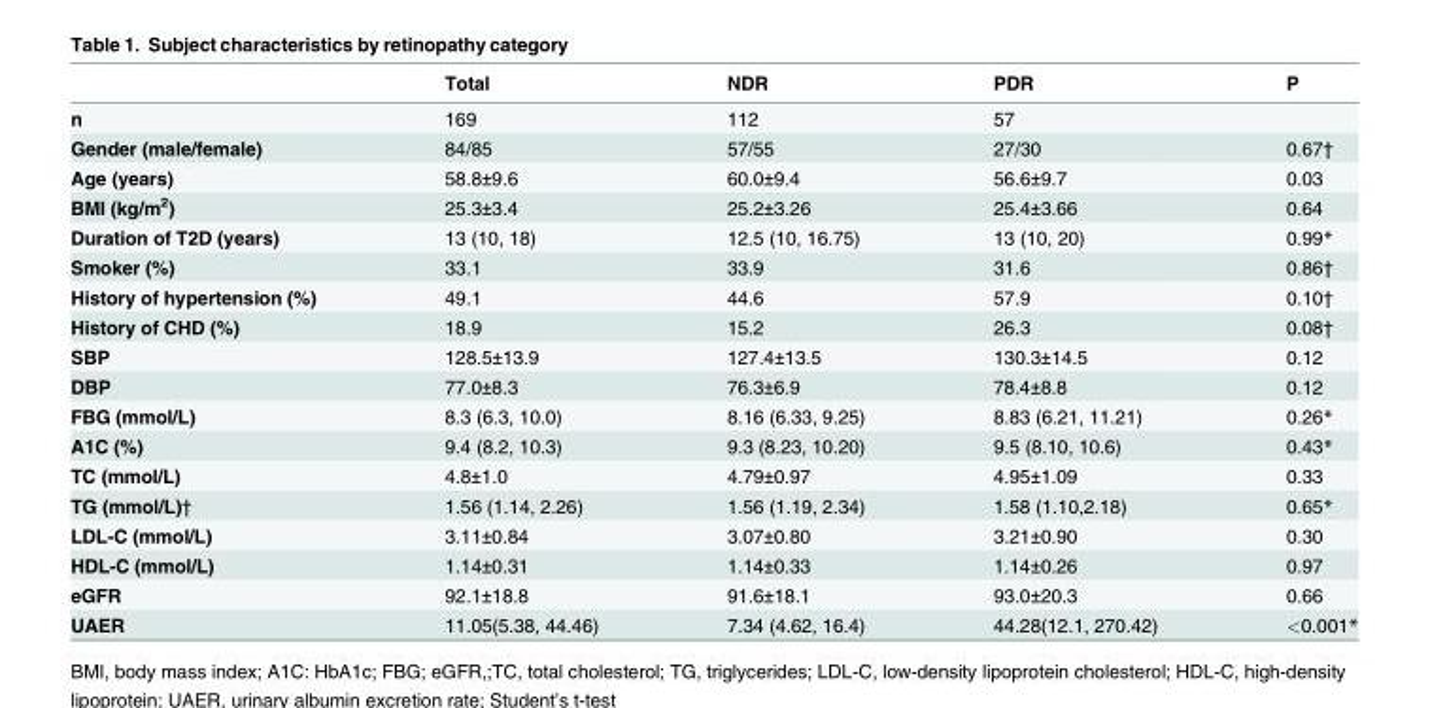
<table><thead><tr><td></td><td>Total</td><td>NDR</td><td>PDR</td><td>P</td></tr></thead><tbody><tr><td>n</td><td>169</td><td>112</td><td>57</td><td></td></tr><tr><td>Gender (male/female)</td><td>84/85</td><td>57/55</td><td>27/30</td><td>0.67†</td></tr><tr><td>Age (years)</td><td>58.8±9.6</td><td>60.0±9.4</td><td>56.6±9.7</td><td>0.03</td></tr><tr><td>BMI (kg/m<sup>2</sup>)</td><td>25.3±3.4</td><td>25.2±3.26</td><td>25.4±3.66</td><td>0.64</td></tr><tr><td>Duration of T2D (years)</td><td>13 (10, 18)</td><td>12.5 (10, 16.75)</td><td>13 (10, 20)</td><td>0.99*</td></tr><tr><td>Smoker (%)</td><td>33.1</td><td>33.9</td><td>31.6</td><td>0.86†</td></tr><tr><td>History of hypertension (%)</td><td>49.1</td><td>44.6</td><td>57.9</td><td>0.10†</td></tr><tr><td>History of CHD (%)</td><td>18.9</td><td>15.2</td><td>26.3</td><td>0.08†</td></tr><tr><td>SBP</td><td>128.5±13.9</td><td>127.4±13.5</td><td>130.3±14.5</td><td>0.12</td></tr><tr><td>DBP</td><td>77.0±8.3</td><td>76.3±6.9</td><td>78.4±8.8</td><td>0.12</td></tr><tr><td>FBG (mmol/L)</td><td>8.3 (6.3, 10.0)</td><td>8.16 (6.33, 9.25)</td><td>8.83 (6.21, 11.21)</td><td>0.26*</td></tr><tr><td>A1C (%)</td><td>9.4 (8.2, 10.3)</td><td>9.3 (8.23, 10.20)</td><td>9.5 (8.10, 10.6)</td><td>0.43*</td></tr><tr><td>TC (mmol/L)</td><td>4.8±1.0</td><td>4.79±0.97</td><td>4.95±1.09</td><td>0.33</td></tr><tr><td>TG (mmol/L)†</td><td>1.56 (1.14, 2.26)</td><td>1.56 (1.19, 2.34)</td><td>1.58 (1.10,2.18)</td><td>0.65*</td></tr><tr><td>LDL-C (mmol/L)</td><td>3.11±0.84</td><td>3.07±0.80</td><td>3.21±0.90</td><td>0.30</td></tr><tr><td>HDL-C (mmol/L)</td><td>1.14±0.31</td><td>1.14±0.33</td><td>1.14±0.26</td><td>0.97</td></tr><tr><td>eGFR</td><td>92.1±18.8</td><td>91.6±18.1</td><td>93.0±20.3</td><td>0.66</td></tr><tr><td>UAER</td><td>11.05(5.38, 44.46)</td><td>7.34 (4.62, 16.4)</td><td>44.28(12.1, 270.42)</td><td>&lt;0.001*</td></tr></tbody></table>